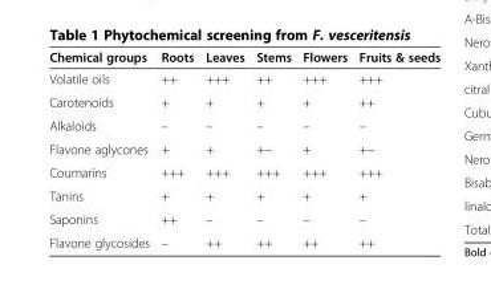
<table><thead><tr><td>Chemical groups</td><td>Roots</td><td>Leaves</td><td>Stems</td><td>Flowers</td><td>Fruits &amp; seeds</td></tr></thead><tbody><tr><td>Volatile oils</td><td>++</td><td>+++</td><td>++</td><td>+++</td><td>+++</td></tr><tr><td>Carotenoids</td><td>+</td><td>+</td><td>+</td><td>+</td><td>++</td></tr><tr><td>Alkaloids</td><td>–</td><td>–</td><td>–</td><td>–</td><td>–</td></tr><tr><td>Flavone aglycones</td><td>+</td><td>+</td><td>+−</td><td>+</td><td>+−</td></tr><tr><td>Coumarins</td><td>+++</td><td>+++</td><td>+++</td><td>+++</td><td>+++</td></tr><tr><td>Tanins</td><td>+</td><td>+</td><td>+</td><td>+</td><td>+</td></tr><tr><td>Saponins</td><td>++</td><td>–</td><td>–</td><td>–</td><td>–</td></tr><tr><td>Flavone glycosides</td><td>–</td><td>++</td><td>++</td><td>++</td><td>++</td></tr></tbody></table>